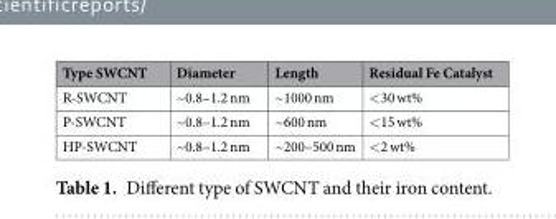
<table><thead><tr><td>Type SWCNT</td><td>Diameter</td><td>Length</td><td>Residual Fe Catalyst</td></tr></thead><tbody><tr><td>R-SWCNT</td><td>~0.8–1.2 nm</td><td>~1000 nm</td><td>&lt;30 wt%</td></tr><tr><td>P-SWCNT</td><td>~0.8–1.2 nm</td><td>~600 nm</td><td>&lt;15 wt%</td></tr><tr><td>HP-SWCNT</td><td>~0.8–1.2 nm</td><td>~200–500 nm</td><td>&lt;2 wt%</td></tr></tbody></table>